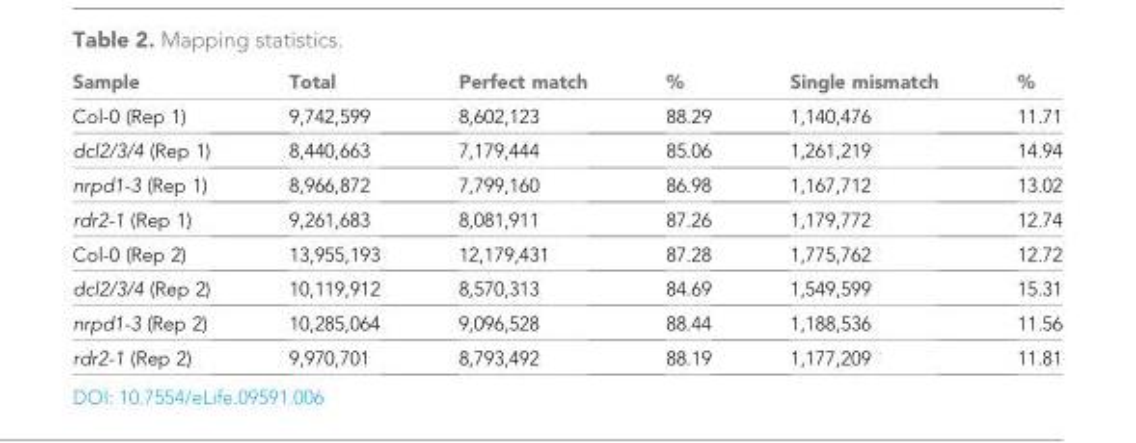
<table><thead><tr><td>Sample</td><td>Total</td><td>Perfect match</td><td>%</td><td>Single mismatch</td><td>%</td></tr></thead><tbody><tr><td>Col-0 (Rep 1)</td><td>9,742,599</td><td>8,602,123</td><td>88.29</td><td>1,140,476</td><td>11.71</td></tr><tr><td>dcl2/3/4 (Rep 1)</td><td>8,440,663</td><td>7,179,444</td><td>85.06</td><td>1,261,219</td><td>14.94</td></tr><tr><td>nrpd1-3 (Rep 1)</td><td>8,966,872</td><td>7,799,160</td><td>86.98</td><td>1,167,712</td><td>13.02</td></tr><tr><td>rdr2-1 (Rep 1)</td><td>9,261,683</td><td>8,081,911</td><td>87.26</td><td>1,179,772</td><td>12.74</td></tr><tr><td>Col-0 (Rep 2)</td><td>13,955,193</td><td>12,179,431</td><td>87.28</td><td>1,775,762</td><td>12.72</td></tr><tr><td>dcl2/3/4 (Rep 2)</td><td>10,119,912</td><td>8,570,313</td><td>84.69</td><td>1,549,599</td><td>15.31</td></tr><tr><td>nrpd1-3 (Rep 2)</td><td>10,285,064</td><td>9,096,528</td><td>88.44</td><td>1,188,536</td><td>11.56</td></tr><tr><td>rdr2-1 (Rep 2)</td><td>9,970,701</td><td>8,793,492</td><td>88.19</td><td>1,177,209</td><td>11.81</td></tr></tbody></table>